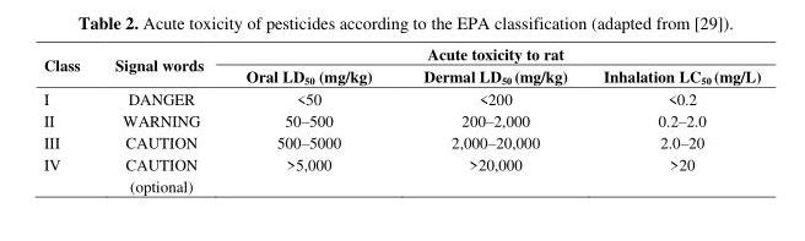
<table><thead><tr><td rowspan="2">Class</td><td rowspan="2">Signal words</td><td colspan="3">Acute toxicity to rat</td></tr><tr><td>Oral LD<sub>50</sub> (mg/kg)</td><td>Dermal LD<sub>50</sub> (mg/kg)</td><td>Inhalation LC<sub>50</sub> (mg/L)</td></tr></thead><tbody><tr><td>I</td><td>DANGER</td><td>&lt;50</td><td>&lt;200</td><td>&lt;0.2</td></tr><tr><td>II</td><td>WARNING</td><td>50–500</td><td>200–2,000</td><td>0.2–2.0</td></tr><tr><td>III</td><td>CAUTION</td><td>500–5000</td><td>2,000–20,000</td><td>2.0–20</td></tr><tr><td>IV</td><td>CAUTION (optional)</td><td>&gt;5,000</td><td>&gt;20,000</td><td>&gt;20</td></tr></tbody></table>